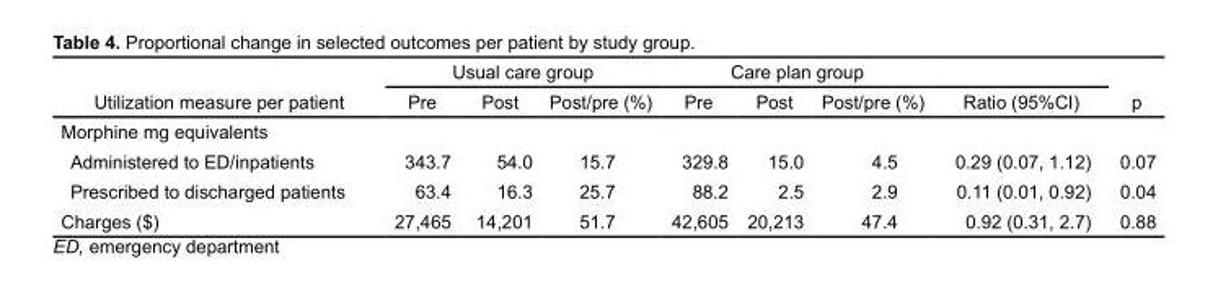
<table><thead><tr><td rowspan="2">Utilization measure per patient</td><td colspan="3">Usual care group</td><td colspan="3">Care plan group</td><td rowspan="2">Ratio (95%CI)</td><td rowspan="2">p</td></tr><tr><td>Pre</td><td>Post</td><td>Post/pre (%)</td><td>Pre</td><td>Post</td><td>Post/pre (%)</td></tr></thead><tbody><tr><td colspan="9">Morphine mg equivalents</td></tr><tr><td>Administered to ED/inpatients</td><td>343.7</td><td>54.0</td><td>15.7</td><td>329.8</td><td>15.0</td><td>4.5</td><td>0.29 (0.07, 1.12)</td><td>0.07</td></tr><tr><td>Prescribed to discharged patients</td><td>63.4</td><td>16.3</td><td>25.7</td><td>88.2</td><td>2.5</td><td>2.9</td><td>0.11 (0.01, 0.92)</td><td>0.04</td></tr><tr><td>Charges ($)</td><td>27,465</td><td>14,201</td><td>51.7</td><td>42,605</td><td>20,213</td><td>47.4</td><td>0.92 (0.31, 2.7)</td><td>0.88</td></tr></tbody></table>